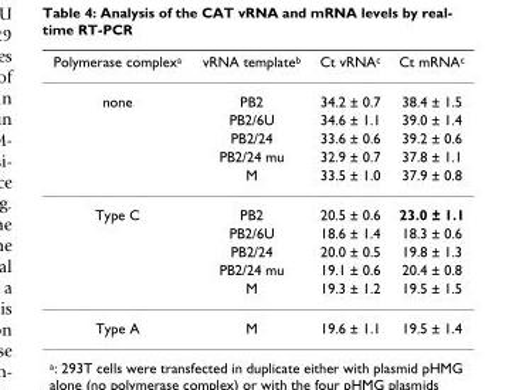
<table><thead><tr><td>Polymerase complex<sup>a</sup></td><td>vRNA template<sup>b</sup></td><td>Ct vRNA<sup>c</sup></td><td>Ct mRNA<sup>c</sup></td></tr></thead><tbody><tr><td rowspan="5">none</td><td>PB2</td><td>34.2 ± 0.7</td><td>38.4 ± 1.5</td></tr><tr><td>PB2/6U</td><td>34.6 ± 1.1</td><td>39.0 ± 1.4</td></tr><tr><td>PB2/24</td><td>33.6 ± 0.6</td><td>39.2 ± 0.6</td></tr><tr><td>PB2/24 mu</td><td>32.9 ± 0.7</td><td>37.8 ± 1.1</td></tr><tr><td>M</td><td>33.5 ± 1.0</td><td>37.9 ± 0.8</td></tr><tr><td rowspan="5">Type C</td><td>PB2</td><td>20.5 ± 0.6</td><td>23.0 ± 1.1</td></tr><tr><td>PB2/6U</td><td>18.6 ± 1.4</td><td>18.3 ± 0.6</td></tr><tr><td>PB2/24</td><td>20.0 ± 0.5</td><td>19.8 ± 1.3</td></tr><tr><td>PB2/24 mu</td><td>19.1 ± 0.6</td><td>20.4 ± 0.8</td></tr><tr><td>M</td><td>19.3 ± 1.2</td><td>19.5 ± 1.5</td></tr><tr><td>Type A</td><td>M</td><td>19.6 ± 1.1</td><td>19.5 ± 1.4</td></tr></tbody></table>